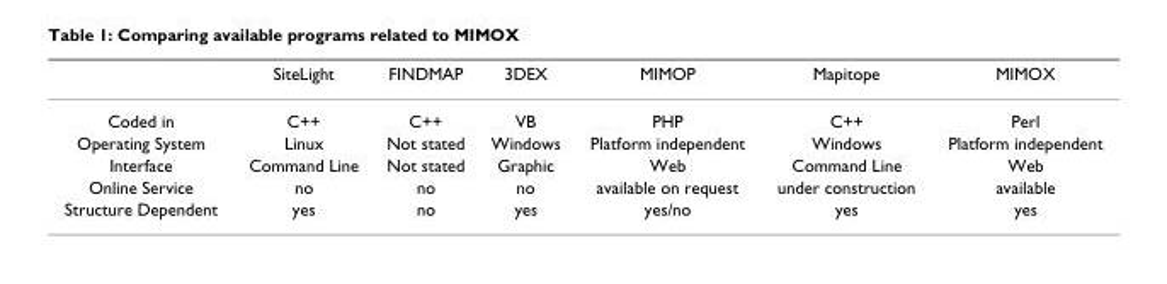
<table><thead><tr><td></td><td>SiteLight</td><td>FINDMAP</td><td>3DEX</td><td>MIMOP</td><td>Mapitope</td><td>MIMOX</td></tr></thead><tbody><tr><td>Coded in</td><td>C++</td><td>C++</td><td>VB</td><td>PHP</td><td>C++</td><td>Perl</td></tr><tr><td>Operating System</td><td>Linux</td><td>Not stated</td><td>Windows</td><td>Platform independent</td><td>Windows</td><td>Platform independent</td></tr><tr><td>Interface</td><td>Command Line</td><td>Not stated</td><td>Graphic</td><td>Web</td><td>Command Line</td><td>Web</td></tr><tr><td>Online Service</td><td>no</td><td>no</td><td>no</td><td>available on request</td><td>under construction</td><td>available</td></tr><tr><td>Structure Dependent</td><td>yes</td><td>no</td><td>yes</td><td>yes/no</td><td>yes</td><td>yes</td></tr></tbody></table>